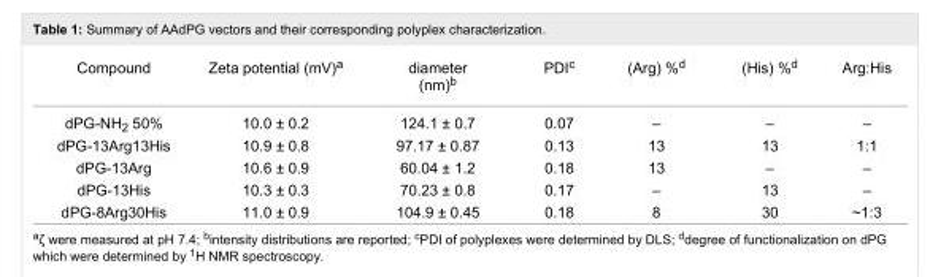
<table><tbody><tr><td>Compound</td><td>Zeta potential (mV)<sup>a</sup></td><td>diameter (nm)<sup>b</sup></td><td>PDI<sup>c</sup></td><td>(Arg) %<sup>d</sup></td><td>(His) %<sup>d</sup></td><td>Arg:His</td></tr><tr><td>dPG-NH<sub>2</sub> 50%</td><td>10.0 ± 0.2</td><td>124.1 ± 0.7</td><td>0.07</td><td>–</td><td>–</td><td>–</td></tr><tr><td>dPG-13Arg13His</td><td>10.9 ± 0.8</td><td>97.17 ± 0.87</td><td>0.13</td><td>13</td><td>13</td><td>1:1</td></tr><tr><td>dPG-13Arg</td><td>10.6 ± 0.9</td><td>60.04 ± 1.2</td><td>0.18</td><td>13</td><td>–</td><td>–</td></tr><tr><td>dPG-13His</td><td>10.3 ± 0.3</td><td>70.23 ± 0.8</td><td>0.17</td><td>–</td><td>13</td><td>–</td></tr><tr><td>dPG-8Arg30His</td><td>11.0 ± 0.9</td><td>104.9 ± 0.45</td><td>0.18</td><td>8</td><td>30</td><td>~1:3</td></tr></tbody></table>